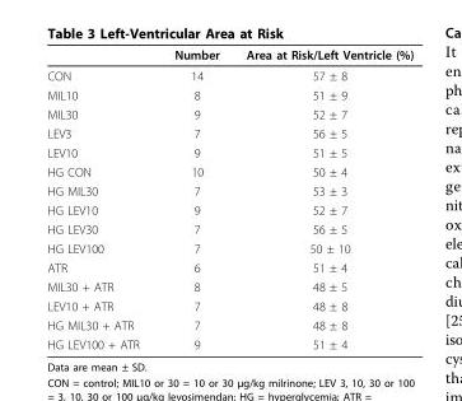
<table><thead><tr><td></td><td>Number</td><td>Area at Risk/Left Ventricle (%)</td></tr></thead><tbody><tr><td>CON</td><td>14</td><td>57 ± 8</td></tr><tr><td>MIL10</td><td>8</td><td>51 ± 9</td></tr><tr><td>MIL30</td><td>9</td><td>52 ± 7</td></tr><tr><td>LEV3</td><td>7</td><td>56 ± 5</td></tr><tr><td>LEV10</td><td>9</td><td>51 ± 5</td></tr><tr><td>HG CON</td><td>10</td><td>50 ± 4</td></tr><tr><td>HG MIL30</td><td>7</td><td>53 ± 3</td></tr><tr><td>HG LEV10</td><td>9</td><td>52 ± 7</td></tr><tr><td>HG LEV30</td><td>7</td><td>56 ± 5</td></tr><tr><td>HG LEV100</td><td>7</td><td>50 ± 10</td></tr><tr><td>ATR</td><td>6</td><td>51 ± 4</td></tr><tr><td>MIL30 + ATR</td><td>8</td><td>48 ± 5</td></tr><tr><td>LEV10 + ATR</td><td>7</td><td>48 ± 8</td></tr><tr><td>HG MIL30 + ATR</td><td>7</td><td>48 ± 8</td></tr><tr><td>HG LEV100 + ATR</td><td>9</td><td>51 ± 4</td></tr></tbody></table>